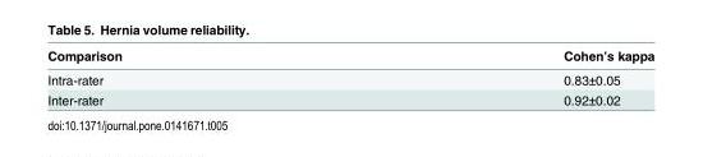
<table><thead><tr><td>Comparison</td><td>Cohen’s kappa</td></tr></thead><tbody><tr><td>Intra-rater</td><td>0.83±0.05</td></tr><tr><td>Inter-rater</td><td>0.92±0.02</td></tr></tbody></table>